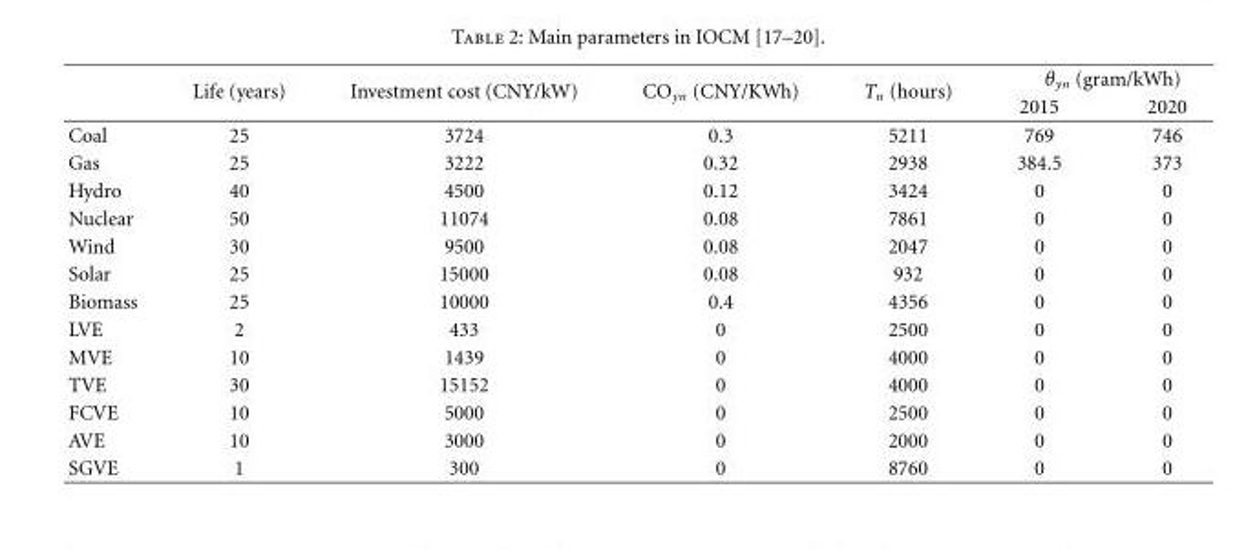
<table><thead><tr><td rowspan="2"></td><td rowspan="2">Life (years)</td><td rowspan="2">Investment cost (CNY/kW)</td><td rowspan="2">CO<sub>yn</sub> (CNY/KWh)</td><td rowspan="2">T<sub>n</sub> (hours)</td><td colspan="2">θ<sub>yn</sub> (gram/kWh)</td></tr><tr><td>2015</td><td>2020</td></tr></thead><tbody><tr><td>Coal</td><td>25</td><td>3724</td><td>0.3</td><td>5211</td><td>769</td><td>746</td></tr><tr><td>Gas</td><td>25</td><td>3222</td><td>0.32</td><td>2938</td><td>384.5</td><td>373</td></tr><tr><td>Hydro</td><td>40</td><td>4500</td><td>0.12</td><td>3424</td><td>0</td><td>0</td></tr><tr><td>Nuclear</td><td>50</td><td>11074</td><td>0.08</td><td>7861</td><td>0</td><td>0</td></tr><tr><td>Wind</td><td>30</td><td>9500</td><td>0.08</td><td>2047</td><td>0</td><td>0</td></tr><tr><td>Solar</td><td>25</td><td>15000</td><td>0.08</td><td>932</td><td>0</td><td>0</td></tr><tr><td>Biomass</td><td>25</td><td>10000</td><td>0.4</td><td>4356</td><td>0</td><td>0</td></tr><tr><td>LVE</td><td>2</td><td>433</td><td>0</td><td>2500</td><td>0</td><td>0</td></tr><tr><td>MVE</td><td>10</td><td>1439</td><td>0</td><td>4000</td><td>0</td><td>0</td></tr><tr><td>TVE</td><td>30</td><td>15152</td><td>0</td><td>4000</td><td>0</td><td>0</td></tr><tr><td>FCVE</td><td>10</td><td>5000</td><td>0</td><td>2500</td><td>0</td><td>0</td></tr><tr><td>AVE</td><td>10</td><td>3000</td><td>0</td><td>2000</td><td>0</td><td>0</td></tr><tr><td>SGVE</td><td>1</td><td>300</td><td>0</td><td>8760</td><td>0</td><td>0</td></tr></tbody></table>